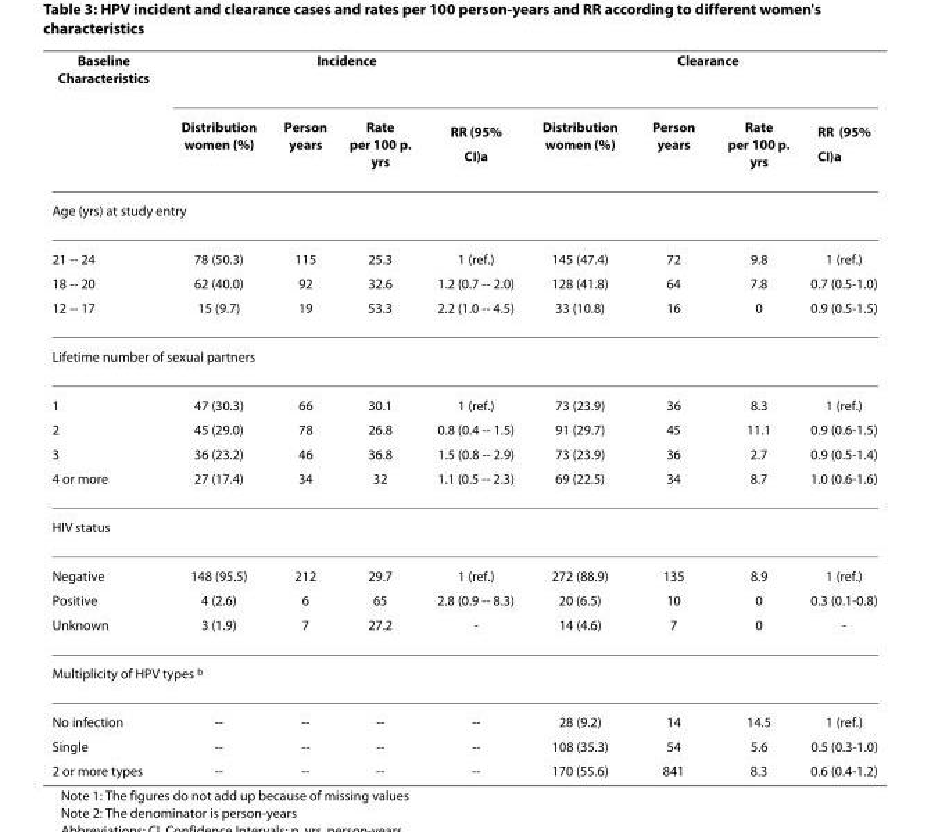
<table><thead><tr><td rowspan="2">Baseline Characteristics</td><td colspan="4">Incidence</td><td colspan="4">Clearance</td></tr><tr><td>Distribution women (%)</td><td>Person years</td><td>Rate per 100 p. yrs</td><td>RR (95% CI)<sup>a</sup></td><td>Distribution women (%)</td><td>Person years</td><td>Rate per 100 p. yrs</td><td>RR (95% CI)<sup>a</sup></td></tr></thead><tbody><tr><td colspan="9">Age (yrs) at study entry</td></tr><tr><td>21 -- 24</td><td>78 (50.3)</td><td>115</td><td>25.3</td><td>1 (ref.)</td><td>145 (47.4)</td><td>72</td><td>9.8</td><td>1 (ref.)</td></tr><tr><td>18 -- 20</td><td>62 (40.0)</td><td>92</td><td>32.6</td><td>1.2 (0.7 -- 2.0)</td><td>128 (41.8)</td><td>64</td><td>7.8</td><td>0.7 (0.5-1.0)</td></tr><tr><td>12 -- 17</td><td>15 (9.7)</td><td>19</td><td>53.3</td><td>2.2 (1.0 -- 4.5)</td><td>33 (10.8)</td><td>16</td><td>0</td><td>0.9 (0.5-1.5)</td></tr><tr><td colspan="9">Lifetime number of sexual partners</td></tr><tr><td>1</td><td>47 (30.3)</td><td>66</td><td>30.1</td><td>1 (ref.)</td><td>73 (23.9)</td><td>36</td><td>8.3</td><td>1 (ref.)</td></tr><tr><td>2</td><td>45 (29.0)</td><td>78</td><td>26.8</td><td>0.8 (0.4 -- 1.5)</td><td>91 (29.7)</td><td>45</td><td>11.1</td><td>0.9 (0.6-1.5)</td></tr><tr><td>3</td><td>36 (23.2)</td><td>46</td><td>36.8</td><td>1.5 (0.8 -- 2.9)</td><td>73 (23.9)</td><td>36</td><td>2.7</td><td>0.9 (0.5-1.4)</td></tr><tr><td>4 or more</td><td>27 (17.4)</td><td>34</td><td>32</td><td>1.1 (0.5 -- 2.3)</td><td>69 (22.5)</td><td>34</td><td>8.7</td><td>1.0 (0.6-1.6)</td></tr><tr><td colspan="9">HIV status</td></tr><tr><td>Negative</td><td>148 (95.5)</td><td>212</td><td>29.7</td><td>1 (ref.)</td><td>272 (88.9)</td><td>135</td><td>8.9</td><td>1 (ref.)</td></tr><tr><td>Positive</td><td>4 (2.6)</td><td>6</td><td>65</td><td>2.8 (0.9 -- 8.3)</td><td>20 (6.5)</td><td>10</td><td>0</td><td>0.3 (0.1-0.8)</td></tr><tr><td>Unknown</td><td>3 (1.9)</td><td>7</td><td>27.2</td><td>-</td><td>14 (4.6)</td><td>7</td><td>0</td><td>-</td></tr><tr><td colspan="9">Multiplicity of HPV types <sup>b</sup></td></tr><tr><td>No infection</td><td>--</td><td>--</td><td>--</td><td>--</td><td>28 (9.2)</td><td>14</td><td>14.5</td><td>1 (ref.)</td></tr><tr><td>Single</td><td>--</td><td>--</td><td>--</td><td>--</td><td>108 (35.3)</td><td>54</td><td>5.6</td><td>0.5 (0.3-1.0)</td></tr><tr><td>2 or more types</td><td>--</td><td>--</td><td>--</td><td>--</td><td>170 (55.6)</td><td>841</td><td>8.3</td><td>0.6 (0.4-1.2)</td></tr></tbody></table>